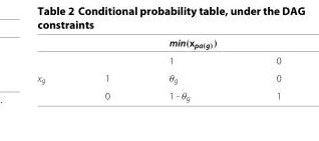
<table><thead><tr><td></td><td></td><td>min(x<sub>pa(g</sub>))</td><td></td></tr></thead><tbody><tr><td></td><td></td><td>1</td><td>0</td></tr><tr><td rowspan="2">x<sub>g</sub></td><td>1</td><td>θ<sub>g</sub></td><td>0</td></tr><tr><td>0</td><td>1 - θ<sub>g</sub></td><td>1</td></tr></tbody></table>